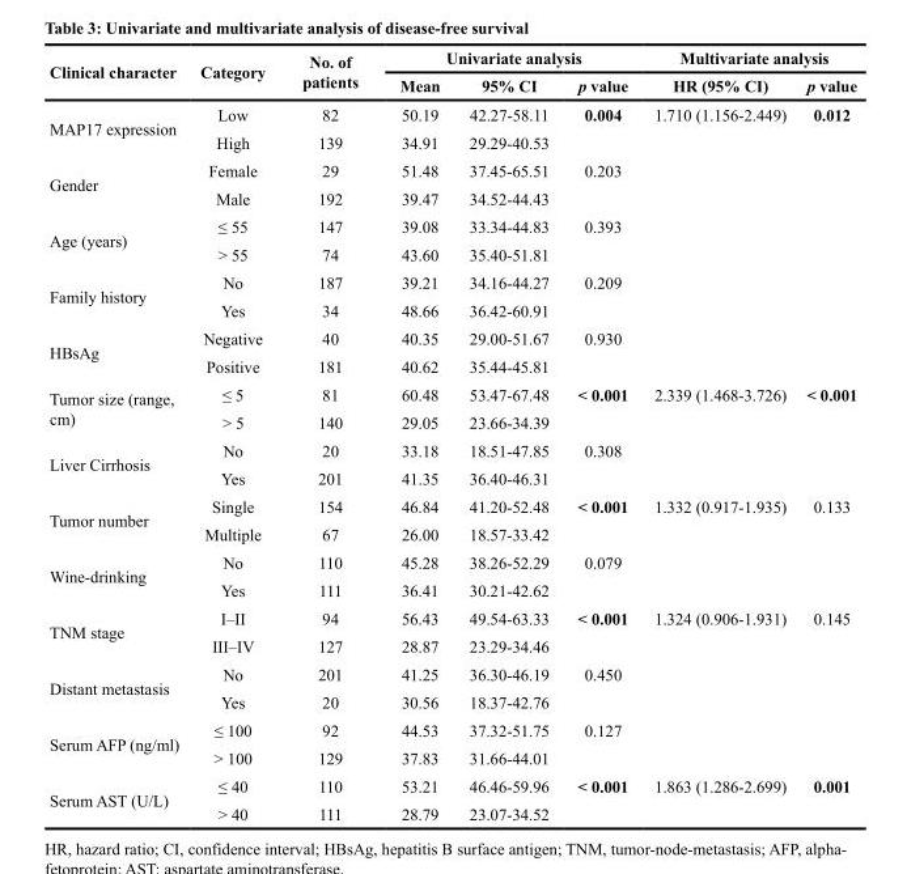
<table><thead><tr><td rowspan="2">Clinical character</td><td rowspan="2">Category</td><td rowspan="2">No. of patients</td><td colspan="3">Univariate analysis</td><td colspan="2">Multivariate analysis</td></tr><tr><td>Mean</td><td>95% CI</td><td>p value</td><td>HR (95% CI)</td><td>p value</td></tr></thead><tbody><tr><td rowspan="2">MAP17 expression</td><td>Low</td><td>82</td><td>50.19</td><td>42.27-58.11</td><td>0.004</td><td>1.710 (1.156-2.449)</td><td>0.012</td></tr><tr><td>High</td><td>139</td><td>34.91</td><td>29.29-40.53</td><td></td><td></td><td></td></tr><tr><td rowspan="2">Gender</td><td>Female</td><td>29</td><td>51.48</td><td>37.45-65.51</td><td>0.203</td><td></td><td></td></tr><tr><td>Male</td><td>192</td><td>39.47</td><td>34.52-44.43</td><td></td><td></td><td></td></tr><tr><td rowspan="2">Age (years)</td><td>≤ 55</td><td>147</td><td>39.08</td><td>33.34-44.83</td><td>0.393</td><td></td><td></td></tr><tr><td>&gt; 55</td><td>74</td><td>43.60</td><td>35.40-51.81</td><td></td><td></td><td></td></tr><tr><td rowspan="2">Family history</td><td>No</td><td>187</td><td>39.21</td><td>34.16-44.27</td><td>0.209</td><td></td><td></td></tr><tr><td>Yes</td><td>34</td><td>48.66</td><td>36.42-60.91</td><td></td><td></td><td></td></tr><tr><td rowspan="2">HBsAg</td><td>Negative</td><td>40</td><td>40.35</td><td>29.00-51.67</td><td>0.930</td><td></td><td></td></tr><tr><td>Positive</td><td>181</td><td>40.62</td><td>35.44-45.81</td><td></td><td></td><td></td></tr><tr><td rowspan="2">Tumor size (range, cm)</td><td>≤ 5</td><td>81</td><td>60.48</td><td>53.47-67.48</td><td>&lt; 0.001</td><td>2.339 (1.468-3.726)</td><td>&lt; 0.001</td></tr><tr><td>&gt; 5</td><td>140</td><td>29.05</td><td>23.66-34.39</td><td></td><td></td><td></td></tr><tr><td rowspan="2">Liver Cirrhosis</td><td>No</td><td>20</td><td>33.18</td><td>18.51-47.85</td><td>0.308</td><td></td><td></td></tr><tr><td>Yes</td><td>201</td><td>41.35</td><td>36.40-46.31</td><td></td><td></td><td></td></tr><tr><td rowspan="2">Tumor number</td><td>Single</td><td>154</td><td>46.84</td><td>41.20-52.48</td><td>&lt; 0.001</td><td>1.332 (0.917-1.935)</td><td>0.133</td></tr><tr><td>Multiple</td><td>67</td><td>26.00</td><td>18.57-33.42</td><td></td><td></td><td></td></tr><tr><td rowspan="2">Wine-drinking</td><td>No</td><td>110</td><td>45.28</td><td>38.26-52.29</td><td>0.079</td><td></td><td></td></tr><tr><td>Yes</td><td>111</td><td>36.41</td><td>30.21-42.62</td><td></td><td></td><td></td></tr><tr><td rowspan="2">TNM stage</td><td>I–II</td><td>94</td><td>56.43</td><td>49.54-63.33</td><td>&lt; 0.001</td><td>1.324 (0.906-1.931)</td><td>0.145</td></tr><tr><td>III–IV</td><td>127</td><td>28.87</td><td>23.29-34.46</td><td></td><td></td><td></td></tr><tr><td rowspan="2">Distant metastasis</td><td>No</td><td>201</td><td>41.25</td><td>36.30-46.19</td><td>0.450</td><td></td><td></td></tr><tr><td>Yes</td><td>20</td><td>30.56</td><td>18.37-42.76</td><td></td><td></td><td></td></tr><tr><td rowspan="2">Serum AFP (ng/ml)</td><td>≤ 100</td><td>92</td><td>44.53</td><td>37.32-51.75</td><td>0.127</td><td></td><td></td></tr><tr><td>&gt; 100</td><td>129</td><td>37.83</td><td>31.66-44.01</td><td></td><td></td><td></td></tr><tr><td rowspan="2">Serum AST (U/L)</td><td>≤ 40</td><td>110</td><td>53.21</td><td>46.46-59.96</td><td>&lt; 0.001</td><td>1.863 (1.286-2.699)</td><td>0.001</td></tr><tr><td>&gt; 40</td><td>111</td><td>28.79</td><td>23.07-34.52</td><td></td><td></td><td></td></tr></tbody></table>